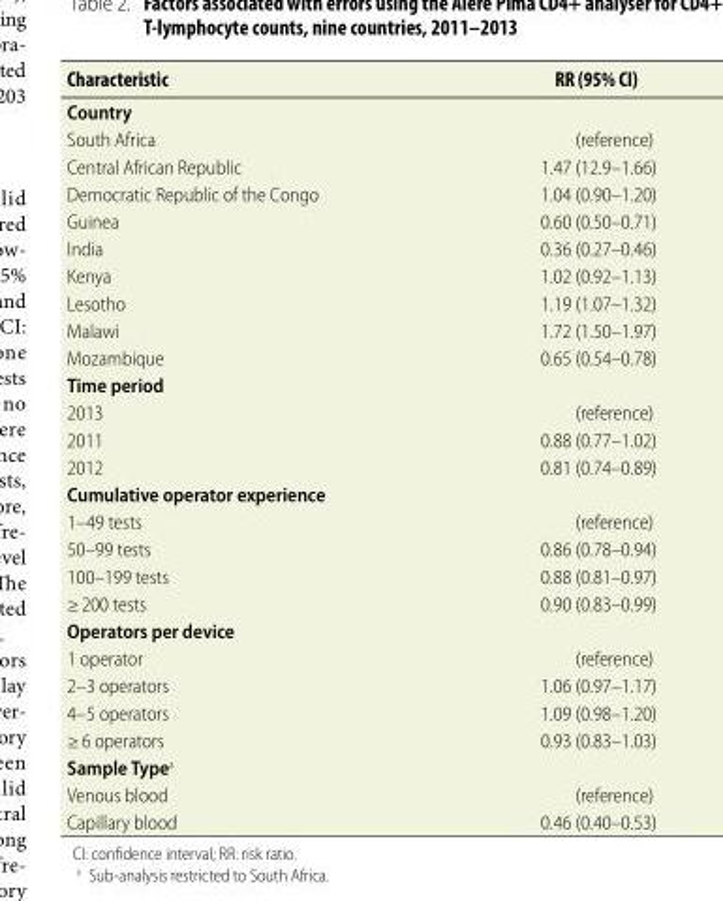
<table><thead><tr><td>Characteristic</td><td>RR (95% CI)</td></tr></thead><tbody><tr><td colspan="2">Country</td></tr><tr><td>South Africa</td><td>(reference)</td></tr><tr><td>Central African Republic</td><td>1.47 (12.9–1.66)</td></tr><tr><td>Democratic Republic of the Congo</td><td>1.04 (0.90–1.20)</td></tr><tr><td>Guinea</td><td>0.60 (0.50–0.71)</td></tr><tr><td>India</td><td>0.36 (0.27–0.46)</td></tr><tr><td>Kenya</td><td>1.02 (0.92–1.13)</td></tr><tr><td>Lesotho</td><td>1.19 (1.07–1.32)</td></tr><tr><td>Malawi</td><td>1.72 (1.50–1.97)</td></tr><tr><td>Mozambique</td><td>0.65 (0.54–0.78)</td></tr><tr><td colspan="2">Time period</td></tr><tr><td>2013</td><td>(reference)</td></tr><tr><td>2011</td><td>0.88 (0.77–1.02)</td></tr><tr><td>2012</td><td>0.81 (0.74–0.89)</td></tr><tr><td colspan="2">Cumulative operator experience</td></tr><tr><td>1–49 tests</td><td>(reference)</td></tr><tr><td>50–99 tests</td><td>0.86 (0.78–0.94)</td></tr><tr><td>100–199 tests</td><td>0.88 (0.81–0.97)</td></tr><tr><td>≥ 200 tests</td><td>0.90 (0.83–0.99)</td></tr><tr><td colspan="2">Operators per device</td></tr><tr><td>1 operator</td><td>(reference)</td></tr><tr><td>2–3 operators</td><td>1.06 (0.97–1.17)</td></tr><tr><td>4–5 operators</td><td>1.09 (0.98–1.20)</td></tr><tr><td>≥ 6 operators</td><td>0.93 (0.83–1.03)</td></tr><tr><td colspan="2">Sample Type<sup>a</sup></td></tr><tr><td>Venous blood</td><td>(reference)</td></tr><tr><td>Capillary blood</td><td>0.46 (0.40–0.53)</td></tr></tbody></table>